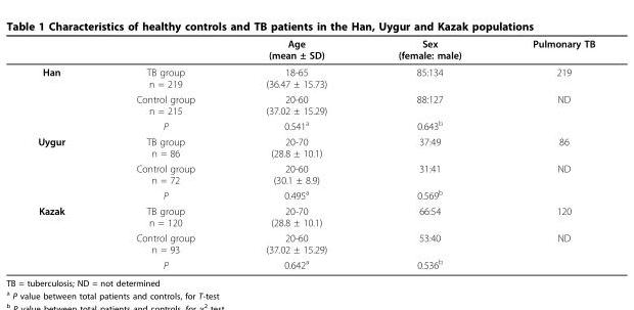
<table><thead><tr><td></td><td></td><td>Age (mean ± SD)</td><td>Sex (female: male)</td><td>Pulmonary TB</td></tr></thead><tbody><tr><td rowspan="3">Han</td><td>TB group n = 219</td><td>18-65 (36.47 ± 15.73)</td><td>85:134</td><td>219</td></tr><tr><td>Control group n = 215</td><td>20-60 (37.02 ± 15.29)</td><td>88:127</td><td>ND</td></tr><tr><td>P</td><td>0.541<sup>a</sup></td><td>0.643<sup>b</sup></td><td></td></tr><tr><td rowspan="3">Uygur</td><td>TB group n = 86</td><td>20-70 (28.8 ± 10.1)</td><td>37:49</td><td>86</td></tr><tr><td>Control group n = 72</td><td>20-60 (30.1 ± 8.9)</td><td>31:41</td><td>ND</td></tr><tr><td>P</td><td>0.495<sup>a</sup></td><td>0.569<sup>b</sup></td><td></td></tr><tr><td rowspan="3">Kazak</td><td>TB group n = 120</td><td>20-70 (28.8 ± 10.1)</td><td>66:54</td><td>120</td></tr><tr><td>Control group n = 93</td><td>20-60 (37.02 ± 15.29)</td><td>53:40</td><td>ND</td></tr><tr><td>P</td><td>0.642<sup>a</sup></td><td>0.536<sup>b</sup></td><td></td></tr></tbody></table>